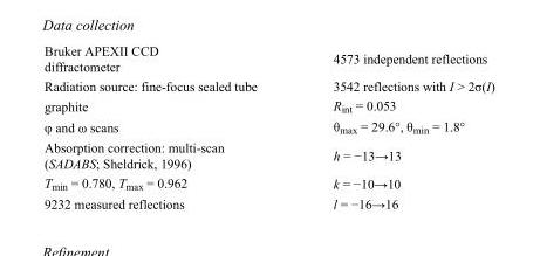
<table><tbody><tr><td>Bruker APEXII CCD diffractometer</td><td>4573 independent reflections</td></tr><tr><td>Radiation source: fine-focus sealed tube</td><td>3542 reflections with I &gt; 2σ(I)</td></tr><tr><td>graphite</td><td>R<sub>int</sub> = 0.053</td></tr><tr><td>φ and ω scans</td><td>θ<sub>max</sub> = 29.6°, θ<sub>min</sub> = 1.8°</td></tr><tr><td>Absorption correction: multi-scan (SADABS; Sheldrick, 1996)</td><td>h = −13→13</td></tr><tr><td>T<sub>min</sub> = 0.780, T<sub>max</sub> = 0.962</td><td>k = −10→10</td></tr><tr><td>9232 measured reflections</td><td>l = −16→16</td></tr></tbody></table>